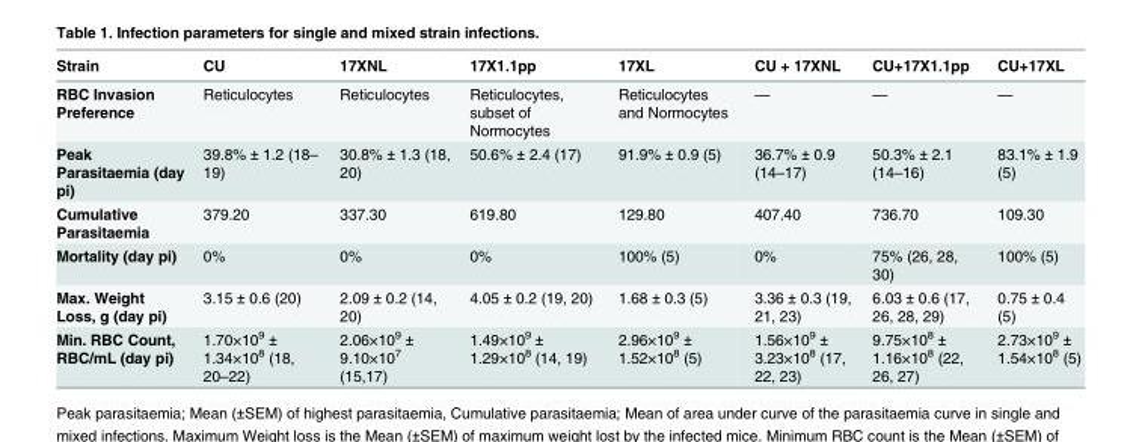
<table><thead><tr><td>Strain</td><td>CU</td><td>17XNL</td><td>17X1.1pp</td><td>17XL</td><td>CU + 17XNL</td><td>CU+17X1.1pp</td><td>CU+17XL</td></tr></thead><tbody><tr><td>RBC Invasion Preference</td><td>Reticulocytes</td><td>Reticulocytes</td><td>Reticulocytes, subset of Normocytes</td><td>Reticulocytes and Normocytes</td><td>—</td><td>—</td><td>—</td></tr><tr><td>Peak Parasitaemia (day pi)</td><td>39.8% ± 1.2 (18– 19)</td><td>30.8% ± 1.3 (18, 20)</td><td>50.6% ± 2.4 (17)</td><td>91.9% ± 0.9 (5)</td><td>36.7% ± 0.9 (14–17)</td><td>50.3% ± 2.1 (14–16)</td><td>83.1% ± 1.9 (5)</td></tr><tr><td>Cumulative Parasitaemia</td><td>379.20</td><td>337.30</td><td>619.80</td><td>129.80</td><td>407.40</td><td>736.70</td><td>109.30</td></tr><tr><td>Mortality (day pi)</td><td>0%</td><td>0%</td><td>0%</td><td>100% (5)</td><td>0%</td><td>75% (26, 28, 30)</td><td>100% (5)</td></tr><tr><td>Max. Weight Loss, g (day pi)</td><td>3.15 ± 0.6 (20)</td><td>2.09 ± 0.2 (14, 20)</td><td>4.05 ± 0.2 (19, 20)</td><td>1.68 ± 0.3 (5)</td><td>3.36 ± 0.3 (19, 21, 23)</td><td>6.03 ± 0.6 (17, 26, 28, 29)</td><td>0.75 ± 0.4 (5)</td></tr><tr><td>Min. RBC Count, RBC/mL (day pi)</td><td>1.70×10<sup>9</sup> ± 1.34×10<sup>8</sup> (18, 20–22)</td><td>2.06×10<sup>9</sup> ± 9.10×10<sup>7</sup> (15,17)</td><td>1.49×10<sup>9</sup> ± 1.29×10<sup>8</sup> (14, 19)</td><td>2.96×10<sup>9</sup> ± 1.52×10<sup>8</sup> (5)</td><td>1.56×10<sup>9</sup> ± 3.23×10<sup>8</sup> (17, 22, 23)</td><td>9.75×10<sup>8</sup> ± 1.16×10<sup>8</sup> (22, 26, 27)</td><td>2.73×10<sup>9</sup> ± 1.54×10<sup>8</sup> (5)</td></tr></tbody></table>